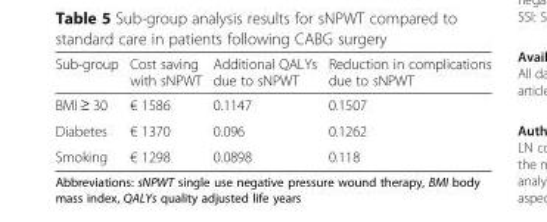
<table><thead><tr><td>Sub-group</td><td>Cost saving with sNPWT</td><td>Additional QALYs due to sNPWT</td><td>Reduction in complications due to sNPWT</td></tr></thead><tbody><tr><td>BMI ≥ 30</td><td>€ 1586</td><td>0.1147</td><td>0.1507</td></tr><tr><td>Diabetes</td><td>€ 1370</td><td>0.096</td><td>0.1262</td></tr><tr><td>Smoking</td><td>€ 1298</td><td>0.0898</td><td>0.118</td></tr></tbody></table>